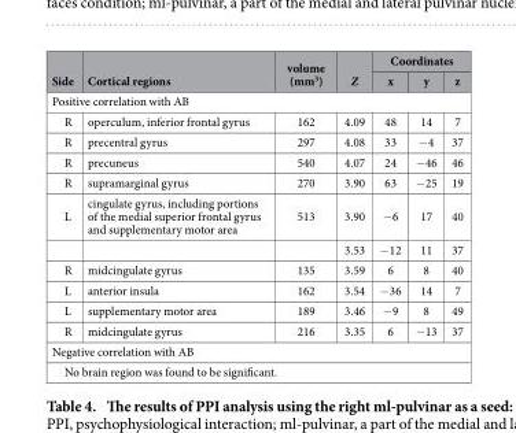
<table><thead><tr><td rowspan="2">Side</td><td rowspan="2">Cortical regions</td><td rowspan="2">volume (mm<sup>3</sup>)</td><td rowspan="2">Z</td><td colspan="3">Coordinates</td></tr><tr><td>x</td><td>y</td><td>z</td></tr></thead><tbody><tr><td colspan="7">Positive correlation with AB</td></tr><tr><td>R</td><td>operculum, inferior frontal gyrus</td><td>162</td><td>4.09</td><td>48</td><td>14</td><td>7</td></tr><tr><td>R</td><td>precentral gyrus</td><td>297</td><td>4.08</td><td>33</td><td>− 4</td><td>37</td></tr><tr><td>R</td><td>precuneus</td><td>540</td><td>4.07</td><td>24</td><td>− 46</td><td>46</td></tr><tr><td>R</td><td>supramarginal gyrus</td><td>270</td><td>3.90</td><td>63</td><td>− 25</td><td>19</td></tr><tr><td rowspan="2">L</td><td>cingulate gyrus, including portions of the medial superior frontal gyrus and supplementary motor area</td><td>513</td><td>3.90</td><td>− 6</td><td>17</td><td>40</td></tr><tr><td></td><td></td><td>3.53</td><td>− 12</td><td>11</td><td>37</td></tr><tr><td>R</td><td>midcingulate gyrus</td><td>135</td><td>3.59</td><td>6</td><td>8</td><td>40</td></tr><tr><td>L</td><td>anterior insula</td><td>162</td><td>3.54</td><td>− 36</td><td>14</td><td>7</td></tr><tr><td>L</td><td>supplementary motor area</td><td>189</td><td>3.46</td><td>− 9</td><td>8</td><td>49</td></tr><tr><td>R</td><td>midcingulate gyrus</td><td>216</td><td>3.35</td><td>6</td><td>− 13</td><td>37</td></tr><tr><td colspan="7">Negative correlation with AB</td></tr><tr><td colspan="7">No brain region was found to be significant.</td></tr></tbody></table>